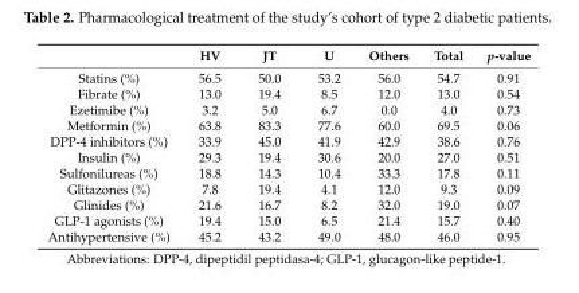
<table><thead><tr><td></td><td>HV</td><td>JT</td><td>U</td><td>Others</td><td>Total</td><td>p-value</td></tr></thead><tbody><tr><td>Statins (%)</td><td>56.5</td><td>50.0</td><td>53.2</td><td>56.0</td><td>54.7</td><td>0.91</td></tr><tr><td>Fibrate (%)</td><td>13.0</td><td>19.4</td><td>8.5</td><td>12.0</td><td>13.0</td><td>0.54</td></tr><tr><td>Ezetimibe (%)</td><td>3.2</td><td>5.0</td><td>6.7</td><td>0.0</td><td>4.0</td><td>0.73</td></tr><tr><td>Metformin (%)</td><td>63.8</td><td>83.3</td><td>77.6</td><td>60.0</td><td>69.5</td><td>0.06</td></tr><tr><td>DPP-4 inhibitors (%)</td><td>33.9</td><td>45.0</td><td>41.9</td><td>42.9</td><td>38.6</td><td>0.76</td></tr><tr><td>Insulin (%)</td><td>29.3</td><td>19.4</td><td>30.6</td><td>20.0</td><td>27.0</td><td>0.51</td></tr><tr><td>Sulfonilureas (%)</td><td>18.8</td><td>14.3</td><td>10.4</td><td>33.3</td><td>17.8</td><td>0.11</td></tr><tr><td>Glitazones (%)</td><td>7.8</td><td>19.4</td><td>4.1</td><td>12.0</td><td>9.3</td><td>0.09</td></tr><tr><td>Glinides (%)</td><td>21.6</td><td>16.7</td><td>8.2</td><td>32.0</td><td>19.0</td><td>0.07</td></tr><tr><td>GLP-1 agonists (%)</td><td>19.4</td><td>15.0</td><td>6.5</td><td>21.4</td><td>15.7</td><td>0.40</td></tr><tr><td>Antihypertensive (%)</td><td>45.2</td><td>43.2</td><td>49.0</td><td>48.0</td><td>46.0</td><td>0.95</td></tr></tbody></table>